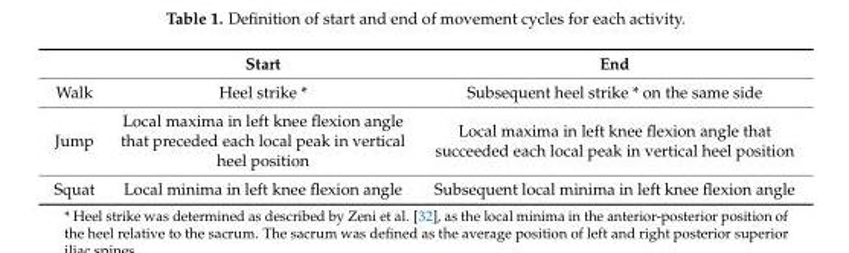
<table><thead><tr><td></td><td>Start</td><td>End</td></tr></thead><tbody><tr><td>Walk</td><td>Heel strike *</td><td>Subsequent heel strike * on the same side</td></tr><tr><td>Jump</td><td>Local maxima in left knee flexion angle that preceded each local peak in vertical heel position</td><td>Local maxima in left knee flexion angle that succeeded each local peak in vertical heel position</td></tr><tr><td>Squat</td><td>Local minima in left knee flexion angle</td><td>Subsequent local minima in left knee flexion angle</td></tr></tbody></table>